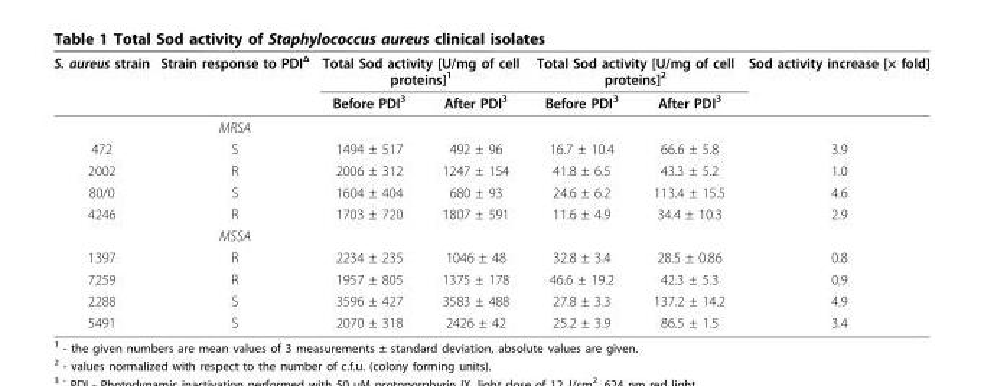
<table><thead><tr><td rowspan="2">S. aureus strain</td><td rowspan="2">Strain response to PDI<sup>Δ</sup></td><td colspan="2">Total Sod activity [U/mg of cell proteins]<sup>1</sup></td><td colspan="2">Total Sod activity [U/mg of cell proteins]<sup>2</sup></td><td rowspan="2">Sod activity increase [× fold]</td></tr><tr><td>Before PDI<sup>3</sup></td><td>After PDI<sup>3</sup></td><td>Before PDI<sup>3</sup></td><td>After PDI<sup>3</sup></td></tr></thead><tbody><tr><td></td><td>MRSA</td><td></td><td></td><td></td><td></td><td></td></tr><tr><td>472</td><td>S</td><td>1494 ± 517</td><td>492 ± 96</td><td>16.7 ± 10.4</td><td>66.6 ± 5.8</td><td>3.9</td></tr><tr><td>2002</td><td>R</td><td>2006 ± 312</td><td>1247 ± 154</td><td>41.8 ± 6.5</td><td>43.3 ± 5.2</td><td>1.0</td></tr><tr><td>80/0</td><td>S</td><td>1604 ± 404</td><td>680 ± 93</td><td>24.6 ± 6.2</td><td>113.4 ± 15.5</td><td>4.6</td></tr><tr><td rowspan="2">4246</td><td>R</td><td>1703 ± 720</td><td>1807 ± 591</td><td>11.6 ± 4.9</td><td>34.4 ± 10.3</td><td>2.9</td></tr><tr><td>MSSA</td><td></td><td></td><td></td><td></td><td></td></tr><tr><td>1397</td><td>R</td><td>2234 ± 235</td><td>1046 ± 48</td><td>32.8 ± 3.4</td><td>28.5 ± 0.86</td><td>0.8</td></tr><tr><td>7259</td><td>R</td><td>1957 ± 805</td><td>1375 ± 178</td><td>46.6 ± 19.2</td><td>42.3 ± 5.3</td><td>0.9</td></tr><tr><td>2288</td><td>S</td><td>3596 ± 427</td><td>3583 ± 488</td><td>27.8 ± 3.3</td><td>137.2 ± 14.2</td><td>4.9</td></tr><tr><td>5491</td><td>S</td><td>2070 ± 318</td><td>2426 ± 42</td><td>25.2 ± 3.9</td><td>86.5 ± 1.5</td><td>3.4</td></tr></tbody></table>